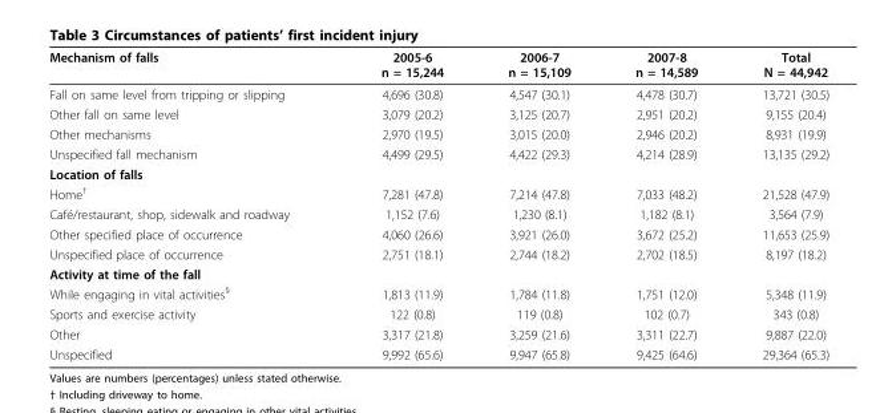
<table><thead><tr><td>Mechanism of falls</td><td>2005-6 n = 15,244</td><td>2006-7 n = 15,109</td><td>2007-8 n = 14,589</td><td>Total N = 44,942</td></tr></thead><tbody><tr><td>Fall on same level from tripping or slipping</td><td>4,696 (30.8)</td><td>4,547 (30.1)</td><td>4,478 (30.7)</td><td>13,721 (30.5)</td></tr><tr><td>Other fall on same level</td><td>3,079 (20.2)</td><td>3,125 (20.7)</td><td>2,951 (20.2)</td><td>9,155 (20.4)</td></tr><tr><td>Other mechanisms</td><td>2,970 (19.5)</td><td>3,015 (20.0)</td><td>2,946 (20.2)</td><td>8,931 (19.9)</td></tr><tr><td>Unspecified fall mechanism</td><td>4,499 (29.5)</td><td>4,422 (29.3)</td><td>4,214 (28.9)</td><td>13,135 (29.2)</td></tr><tr><td colspan="5">Location of falls</td></tr><tr><td>Home<sup>†</sup></td><td>7,281 (47.8)</td><td>7,214 (47.8)</td><td>7,033 (48.2)</td><td>21,528 (47.9)</td></tr><tr><td>Café/restaurant, shop, sidewalk and roadway</td><td>1,152 (7.6)</td><td>1,230 (8.1)</td><td>1,182 (8.1)</td><td>3,564 (7.9)</td></tr><tr><td>Other specified place of occurrence</td><td>4,060 (26.6)</td><td>3,921 (26.0)</td><td>3,672 (25.2)</td><td>11,653 (25.9)</td></tr><tr><td>Unspecified place of occurrence</td><td>2,751 (18.1)</td><td>2,744 (18.2)</td><td>2,702 (18.5)</td><td>8,197 (18.2)</td></tr><tr><td colspan="5">Activity at time of the fall</td></tr><tr><td>While engaging in vital activities<sup>§</sup></td><td>1,813 (11.9)</td><td>1,784 (11.8)</td><td>1,751 (12.0)</td><td>5,348 (11.9)</td></tr><tr><td>Sports and exercise activity</td><td>122 (0.8)</td><td>119 (0.8)</td><td>102 (0.7)</td><td>343 (0.8)</td></tr><tr><td>Other</td><td>3,317 (21.8)</td><td>3,259 (21.6)</td><td>3,311 (22.7)</td><td>9,887 (22.0)</td></tr><tr><td>Unspecified</td><td>9,992 (65.6)</td><td>9,947 (65.8)</td><td>9,425 (64.6)</td><td>29,364 (65.3)</td></tr></tbody></table>